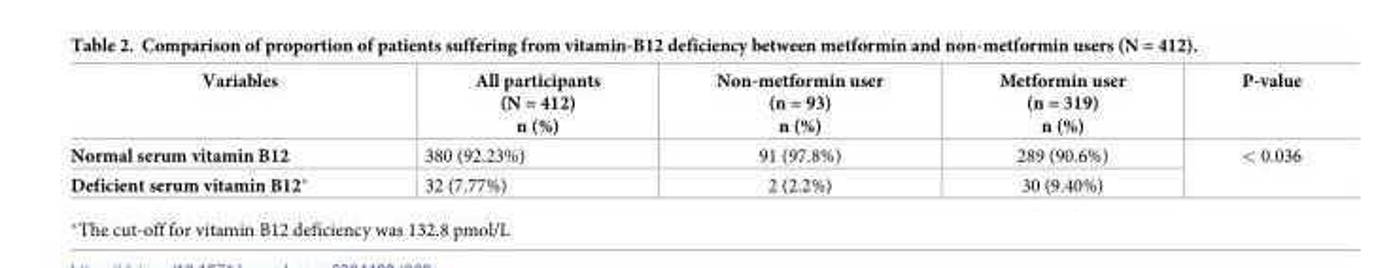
<table><thead><tr><td>Variables</td><td>All participants (N = 412) n (%)</td><td>Non-metformin user (n = 93) n (%)</td><td>Metformin user (n = 319) n (%)</td><td>P-value</td></tr></thead><tbody><tr><td>Normal serum vitamin B12</td><td>380 (92.23%)</td><td>91 (97.8%)</td><td>289 (90.6%)</td><td rowspan="2">&lt; 0.036</td></tr><tr><td>Deficient serum vitamin B12*</td><td>32 (7.77%)</td><td>2 (2.2%)</td><td>30 (9.40%)</td></tr></tbody></table>